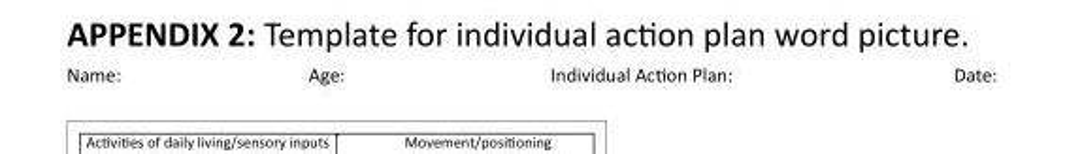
<table><tbody><tr><td>Name:</td><td>Age:</td><td>Individual Action Plan:</td><td>Date:</td></tr></tbody></table>